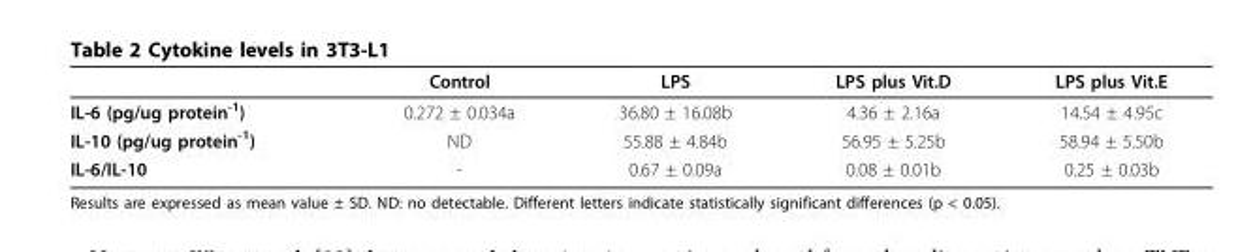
<table><thead><tr><td></td><td>Control</td><td>LPS</td><td>LPS plus Vit.D</td><td>LPS plus Vit.E</td></tr></thead><tbody><tr><td>IL-6 (pg/ug protein<sup>-1</sup>)</td><td>0.272 ± 0.034a</td><td>36.80 ± 16.08b</td><td>4.36 ± 2.16a</td><td>14.54 ± 4.95c</td></tr><tr><td>IL-10 (pg/ug protein<sup>-1</sup>)</td><td>ND</td><td>55.88 ± 4.84b</td><td>56.95 ± 5.25b</td><td>58.94 ± 5.50b</td></tr><tr><td>IL-6/IL-10</td><td>-</td><td>0.67 ± 0.09a</td><td>0.08 ± 0.01b</td><td>0.25 ± 0.03b</td></tr></tbody></table>